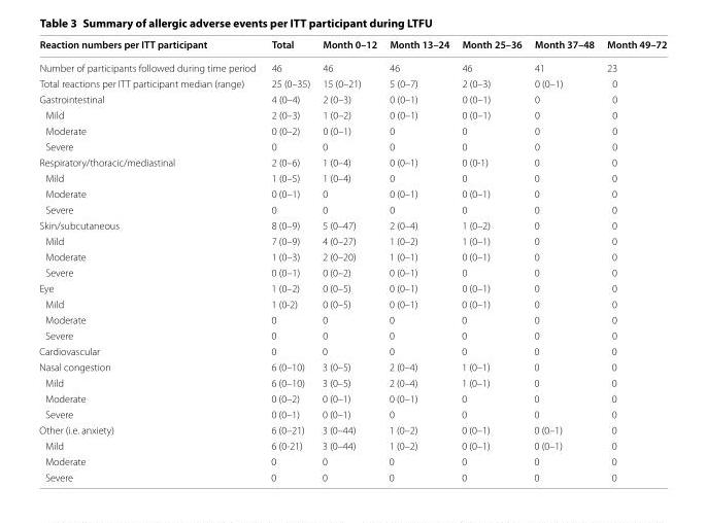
<table><thead><tr><td>Reaction numbers per ITT participant</td><td>Total</td><td>Month 0–12</td><td>Month 13–24</td><td>Month 25–36</td><td>Month 37–48</td><td>Month 49–72</td></tr></thead><tbody><tr><td>Number of participants followed during time period</td><td>46</td><td>46</td><td>46</td><td>46</td><td>41</td><td>23</td></tr><tr><td>Total reactions per ITT participant median (range)</td><td>25 (0–35)</td><td>15 (0–21)</td><td>5 (0–7)</td><td>2 (0–3)</td><td>0 (0–1)</td><td>0</td></tr><tr><td>Gastrointestinal</td><td>4 (0–4)</td><td>2 (0–3)</td><td>0 (0–1)</td><td>0 (0–1)</td><td>0</td><td>0</td></tr><tr><td>Mild</td><td>2 (0–3)</td><td>1 (0–2)</td><td>0 (0–1)</td><td>0 (0–1)</td><td>0</td><td>0</td></tr><tr><td>Moderate</td><td>0 (0–2)</td><td>0 (0–1)</td><td>0</td><td>0</td><td>0</td><td>0</td></tr><tr><td>Severe</td><td>0</td><td>0</td><td>0</td><td>0</td><td>0</td><td>0</td></tr><tr><td>Respiratory/thoracic/mediastinal</td><td>2 (0–6)</td><td>1 (0–4)</td><td>0 (0–1)</td><td>0 (0-1)</td><td>0</td><td>0</td></tr><tr><td>Mild</td><td>1 (0–5)</td><td>1 (0–4)</td><td>0</td><td>0</td><td>0</td><td>0</td></tr><tr><td>Moderate</td><td>0 (0–1)</td><td>0</td><td>0 (0–1)</td><td>0 (0–1)</td><td>0</td><td>0</td></tr><tr><td>Severe</td><td>0</td><td>0</td><td>0</td><td>0</td><td>0</td><td>0</td></tr><tr><td>Skin/subcutaneous</td><td>8 (0–9)</td><td>5 (0–47)</td><td>2 (0–4)</td><td>1 (0–2)</td><td>0</td><td>0</td></tr><tr><td>Mild</td><td>7 (0–9)</td><td>4 (0–27)</td><td>1 (0–2)</td><td>1 (0–1)</td><td>0</td><td>0</td></tr><tr><td>Moderate</td><td>1 (0–3)</td><td>2 (0–20)</td><td>1 (0–1)</td><td>0 (0–1)</td><td>0</td><td>0</td></tr><tr><td>Severe</td><td>0 (0–1)</td><td>0 (0–2)</td><td>0 (0–1)</td><td>0</td><td>0</td><td>0</td></tr><tr><td>Eye</td><td>1 (0–2)</td><td>0 (0–5)</td><td>0 (0–1)</td><td>0 (0–1)</td><td>0</td><td>0</td></tr><tr><td>Mild</td><td>1 (0-2)</td><td>0 (0–5)</td><td>0 (0–1)</td><td>0 (0–1)</td><td>0</td><td>0</td></tr><tr><td>Moderate</td><td>0</td><td>0</td><td>0</td><td>0</td><td>0</td><td>0</td></tr><tr><td>Severe</td><td>0</td><td>0</td><td>0</td><td>0</td><td>0</td><td>0</td></tr><tr><td>Cardiovascular</td><td>0</td><td>0</td><td>0</td><td>0</td><td>0</td><td>0</td></tr><tr><td>Nasal congestion</td><td>6 (0–10)</td><td>3 (0–5)</td><td>2 (0–4)</td><td>1 (0–1)</td><td>0</td><td>0</td></tr><tr><td>Mild</td><td>6 (0–10)</td><td>3 (0–5)</td><td>2 (0–4)</td><td>1 (0–1)</td><td>0</td><td>0</td></tr><tr><td>Moderate</td><td>0 (0–2)</td><td>0 (0–1)</td><td>0 (0–1)</td><td>0</td><td>0</td><td>0</td></tr><tr><td>Severe</td><td>0 (0–1)</td><td>0 (0–1)</td><td>0</td><td>0</td><td>0</td><td>0</td></tr><tr><td>Other (i.e. anxiety)</td><td>6 (0–21)</td><td>3 (0–44)</td><td>1 (0–2)</td><td>0 (0–1)</td><td>0 (0–1)</td><td>0</td></tr><tr><td>Mild</td><td>6 (0-21)</td><td>3 (0–44)</td><td>1 (0–2)</td><td>0 (0–1)</td><td>0 (0–1)</td><td>0</td></tr><tr><td>Moderate</td><td>0</td><td>0</td><td>0</td><td>0</td><td>0</td><td>0</td></tr><tr><td>Severe</td><td>0</td><td>0</td><td>0</td><td>0</td><td>0</td><td>0</td></tr></tbody></table>